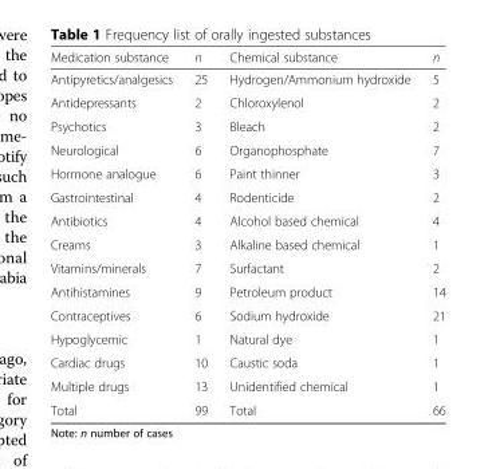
<table><thead><tr><td>Medication substance</td><td>n</td><td>Chemical substance</td><td>n</td></tr></thead><tbody><tr><td>Antipyretics/analgesics</td><td>25</td><td>Hydrogen/Ammonium hydroxide</td><td>5</td></tr><tr><td>Antidepressants</td><td>2</td><td>Chloroxylenol</td><td>2</td></tr><tr><td>Psychotics</td><td>3</td><td>Bleach</td><td>2</td></tr><tr><td>Neurological</td><td>6</td><td>Organophosphate</td><td>7</td></tr><tr><td>Hormone analogue</td><td>6</td><td>Paint thinner</td><td>3</td></tr><tr><td>Gastrointestinal</td><td>4</td><td>Rodenticide</td><td>2</td></tr><tr><td>Antibiotics</td><td>4</td><td>Alcohol based chemical</td><td>4</td></tr><tr><td>Creams</td><td>3</td><td>Alkaline based chemical</td><td>1</td></tr><tr><td>Vitamins/minerals</td><td>7</td><td>Surfactant</td><td>2</td></tr><tr><td>Antihistamines</td><td>9</td><td>Petroleum product</td><td>14</td></tr><tr><td>Contraceptives</td><td>6</td><td>Sodium hydroxide</td><td>21</td></tr><tr><td>Hypoglycemic</td><td>1</td><td>Natural dye</td><td>1</td></tr><tr><td>Cardiac drugs</td><td>10</td><td>Caustic soda</td><td>1</td></tr><tr><td>Multiple drugs</td><td>13</td><td>Unidentified chemical</td><td>1</td></tr><tr><td>Total</td><td>99</td><td>Total</td><td>66</td></tr></tbody></table>